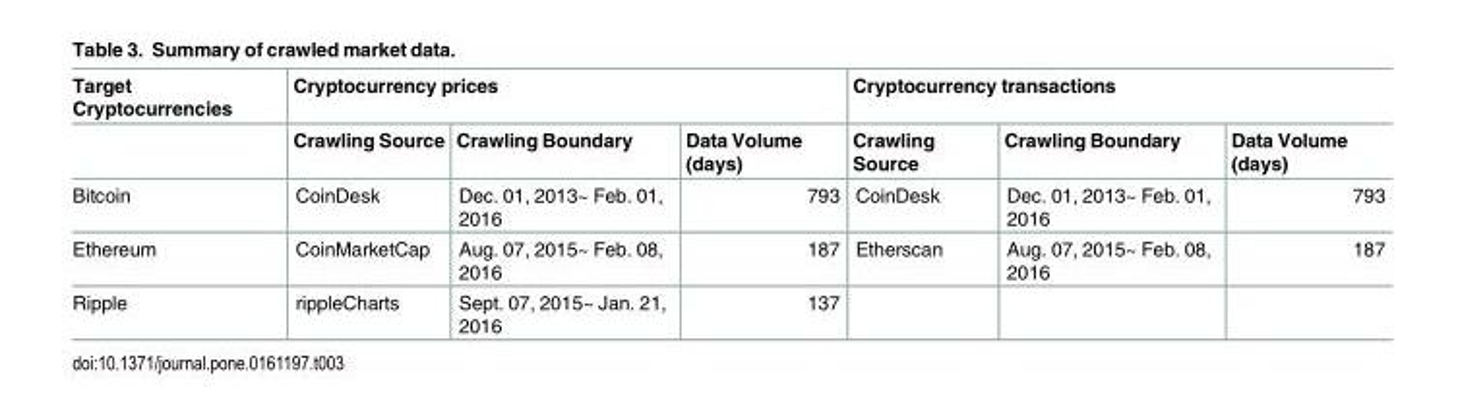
<table><thead><tr><td rowspan="2">Target Cryptocurrencies</td><td colspan="3">Cryptocurrency prices</td><td colspan="3">Cryptocurrency transactions</td></tr><tr><td>Crawling Source</td><td>Crawling Boundary</td><td>Data Volume (days)</td><td>Crawling Source</td><td>Crawling Boundary</td><td>Data Volume (days)</td></tr></thead><tbody><tr><td>Bitcoin</td><td>CoinDesk</td><td>Dec. 01, 2013~ Feb. 01, 2016</td><td>793</td><td>CoinDesk</td><td>Dec. 01, 2013~ Feb. 01, 2016</td><td>793</td></tr><tr><td>Ethereum</td><td>CoinMarketCap</td><td>Aug. 07, 2015~ Feb. 08, 2016</td><td>187</td><td>Etherscan</td><td>Aug. 07, 2015~ Feb. 08, 2016</td><td>187</td></tr><tr><td>Ripple</td><td>rippleCharts</td><td>Sept. 07, 2015~ Jan. 21, 2016</td><td>137</td><td></td><td></td><td></td></tr></tbody></table>